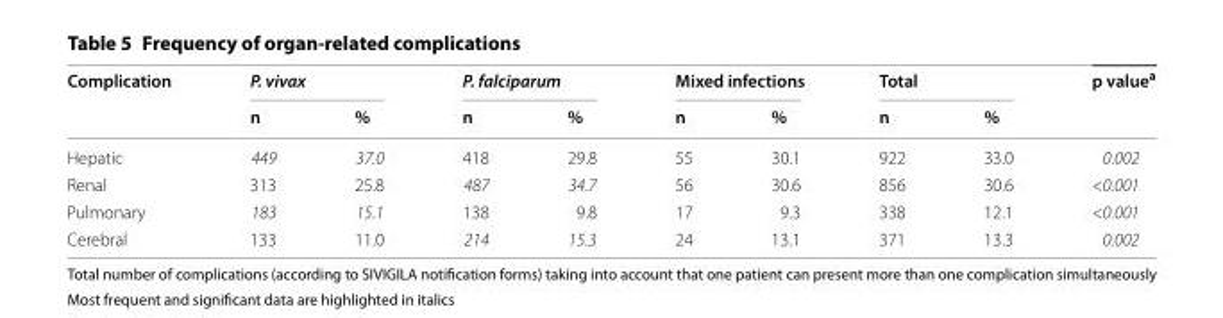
<table><thead><tr><td rowspan="2">Complication</td><td colspan="2">P. vivax</td><td colspan="2">P. falciparum</td><td colspan="2">Mixed infections</td><td colspan="2">Total</td><td rowspan="2">p value<sup>a</sup></td></tr><tr><td>n</td><td>%</td><td>n</td><td>%</td><td>n</td><td>%</td><td>n</td><td>%</td></tr></thead><tbody><tr><td>Hepatic</td><td>449</td><td>37.0</td><td>418</td><td>29.8</td><td>55</td><td>30.1</td><td>922</td><td>33.0</td><td>0.002</td></tr><tr><td>Renal</td><td>313</td><td>25.8</td><td>487</td><td>34.7</td><td>56</td><td>30.6</td><td>856</td><td>30.6</td><td>&lt;0.001</td></tr><tr><td>Pulmonary</td><td>183</td><td>15.1</td><td>138</td><td>9.8</td><td>17</td><td>9.3</td><td>338</td><td>12.1</td><td>&lt;0.001</td></tr><tr><td>Cerebral</td><td>133</td><td>11.0</td><td>214</td><td>15.3</td><td>24</td><td>13.1</td><td>371</td><td>13.3</td><td>0.002</td></tr></tbody></table>